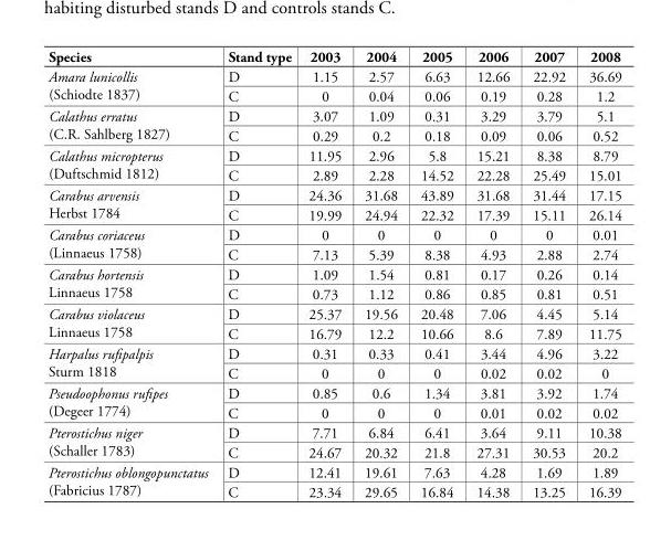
<table><thead><tr><td>Species</td><td>Stand type</td><td>2003</td><td>2004</td><td>2005</td><td>2006</td><td>2007</td><td>2008</td></tr></thead><tbody><tr><td rowspan="2">Amara lunicollis (Schiodte 1837)</td><td>D</td><td>1.15</td><td>2.57</td><td>6.63</td><td>12.66</td><td>22.92</td><td>36.69</td></tr><tr><td>C</td><td>0</td><td>0.04</td><td>0.06</td><td>0.19</td><td>0.28</td><td>1.2</td></tr><tr><td rowspan="2">Calathus erratus (C.R. Sahlberg 1827)</td><td>D</td><td>3.07</td><td>1.09</td><td>0.31</td><td>3.29</td><td>3.79</td><td>5.1</td></tr><tr><td>C</td><td>0.29</td><td>0.2</td><td>0.18</td><td>0.09</td><td>0.06</td><td>0.52</td></tr><tr><td rowspan="2">Calathus micropterus (Duftschmid 1812)</td><td>D</td><td>11.95</td><td>2.96</td><td>5.8</td><td>15.21</td><td>8.38</td><td>8.79</td></tr><tr><td>C</td><td>2.89</td><td>2.28</td><td>14.52</td><td>22.28</td><td>25.49</td><td>15.01</td></tr><tr><td rowspan="2">Carabus arvensis Herbst 1784</td><td>D</td><td>24.36</td><td>31.68</td><td>43.89</td><td>31.68</td><td>31.44</td><td>17.15</td></tr><tr><td>C</td><td>19.99</td><td>24.94</td><td>22.32</td><td>17.39</td><td>15.11</td><td>26.14</td></tr><tr><td rowspan="2">Carabus coriaceus (Linnaeus 1758)</td><td>D</td><td>0</td><td>0</td><td>0</td><td>0</td><td>0</td><td>0.01</td></tr><tr><td>C</td><td>7.13</td><td>5.39</td><td>8.38</td><td>4.93</td><td>2.88</td><td>2.74</td></tr><tr><td rowspan="2">Carabus hortensis Linnaeus 1758</td><td>D</td><td>1.09</td><td>1.54</td><td>0.81</td><td>0.17</td><td>0.26</td><td>0.14</td></tr><tr><td>C</td><td>0.73</td><td>1.12</td><td>0.86</td><td>0.85</td><td>0.81</td><td>0.51</td></tr><tr><td rowspan="2">Carabus violaceus Linnaeus 1758</td><td>D</td><td>25.37</td><td>19.56</td><td>20.48</td><td>7.06</td><td>4.45</td><td>5.14</td></tr><tr><td>C</td><td>16.79</td><td>12.2</td><td>10.66</td><td>8.6</td><td>7.89</td><td>11.75</td></tr><tr><td rowspan="2">Harpalus rufipalpis Sturm 1818</td><td>D</td><td>0.31</td><td>0.33</td><td>0.41</td><td>3.44</td><td>4.96</td><td>3.22</td></tr><tr><td>C</td><td>0</td><td>0</td><td>0</td><td>0.02</td><td>0.02</td><td>0</td></tr><tr><td rowspan="2">Pseudoophonus rufipes (Degeer 1774)</td><td>D</td><td>0.85</td><td>0.6</td><td>1.34</td><td>3.81</td><td>3.92</td><td>1.74</td></tr><tr><td>C</td><td>0</td><td>0</td><td>0</td><td>0.01</td><td>0.02</td><td>0.02</td></tr><tr><td rowspan="2">Pterostichus niger (Schaller 1783)</td><td>D</td><td>7.71</td><td>6.84</td><td>6.41</td><td>3.64</td><td>9.11</td><td>10.38</td></tr><tr><td>C</td><td>24.67</td><td>20.32</td><td>21.8</td><td>27.31</td><td>30.53</td><td>20.2</td></tr><tr><td rowspan="2">Pterostichus oblongopunctatus (Fabricius 1787)</td><td>D</td><td>12.41</td><td>19.61</td><td>7.63</td><td>4.28</td><td>1.69</td><td>1.89</td></tr><tr><td>C</td><td>23.34</td><td>29.65</td><td>16.84</td><td>14.38</td><td>13.25</td><td>16.39</td></tr></tbody></table>